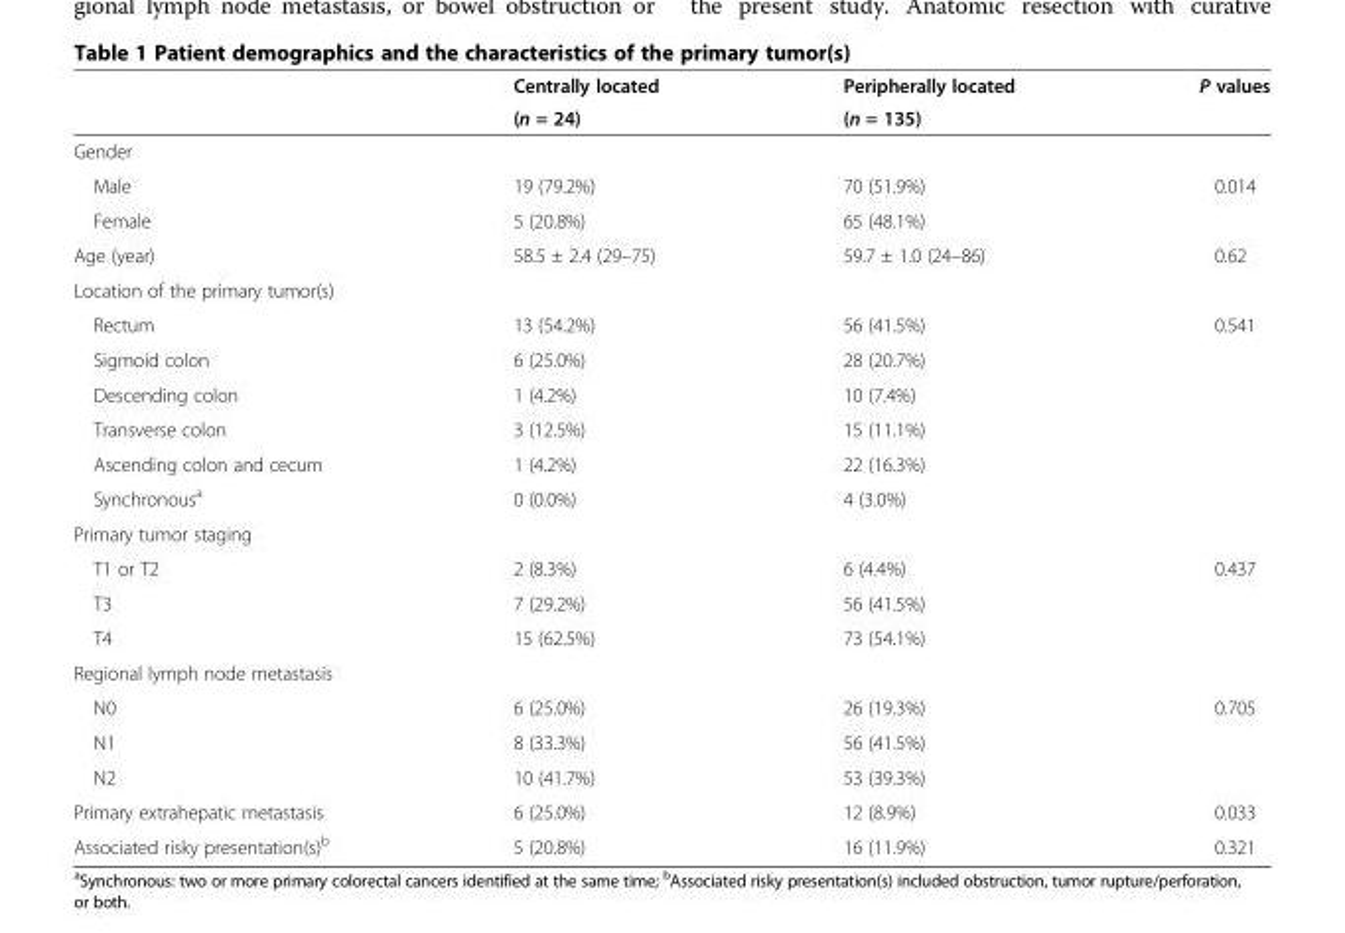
<table><thead><tr><td rowspan="2"></td><td rowspan="2">Centrally located (n = 24)</td><td rowspan="2">Peripherally located (n = 135)</td><td rowspan="2">P values</td></tr><tr></tr></thead><tbody><tr><td colspan="4">Gender</td></tr><tr><td>Male</td><td>19 (79.2%)</td><td>70 (51.9%)</td><td>0.014</td></tr><tr><td>Female</td><td>5 (20.8%)</td><td>65 (48.1%)</td><td></td></tr><tr><td>Age (year)</td><td>58.5 ± 2.4 (29–75)</td><td>59.7 ± 1.0 (24–86)</td><td>0.62</td></tr><tr><td colspan="4">Location of the primary tumor(s)</td></tr><tr><td>Rectum</td><td>13 (54.2%)</td><td>56 (41.5%)</td><td>0.541</td></tr><tr><td>Sigmoid colon</td><td>6 (25.0%)</td><td>28 (20.7%)</td><td></td></tr><tr><td>Descending colon</td><td>1 (4.2%)</td><td>10 (7.4%)</td><td></td></tr><tr><td>Transverse colon</td><td>3 (12.5%)</td><td>15 (11.1%)</td><td></td></tr><tr><td>Ascending colon and cecum</td><td>1 (4.2%)</td><td>22 (16.3%)</td><td></td></tr><tr><td>Synchronous<sup>a</sup></td><td>0 (0.0%)</td><td>4 (3.0%)</td><td></td></tr><tr><td colspan="4">Primary tumor staging</td></tr><tr><td>T1 or T2</td><td>2 (8.3%)</td><td>6 (4.4%)</td><td>0.437</td></tr><tr><td>T3</td><td>7 (29.2%)</td><td>56 (41.5%)</td><td></td></tr><tr><td>T4</td><td>15 (62.5%)</td><td>73 (54.1%)</td><td></td></tr><tr><td colspan="4">Regional lymph node metastasis</td></tr><tr><td>N0</td><td>6 (25.0%)</td><td>26 (19.3%)</td><td>0.705</td></tr><tr><td>N1</td><td>8 (33.3%)</td><td>56 (41.5%)</td><td></td></tr><tr><td>N2</td><td>10 (41.7%)</td><td>53 (39.3%)</td><td></td></tr><tr><td>Primary extrahepatic metastasis</td><td>6 (25.0%)</td><td>12 (8.9%)</td><td>0.033</td></tr><tr><td>Associated risky presentation(s)<sup>b</sup></td><td>5 (20.8%)</td><td>16 (11.9%)</td><td>0.321</td></tr></tbody></table>